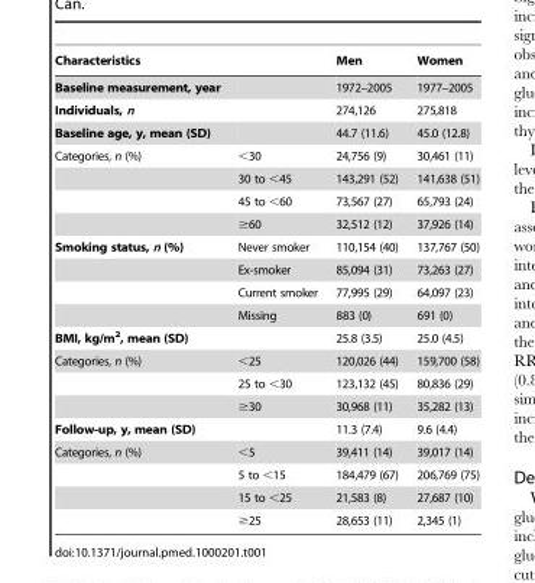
<table><thead><tr><td colspan="2">Characteristics</td><td rowspan="2">Men 1972–2005</td><td rowspan="2">Women 1977–2005</td></tr><tr><td>Baseline measurement, year</td><td></td></tr></thead><tbody><tr><td>Individuals, n</td><td></td><td>274,126</td><td>275,818</td></tr><tr><td>Baseline age, y, mean (SD)</td><td></td><td>44.7 (11.6)</td><td>45.0 (12.8)</td></tr><tr><td rowspan="4">Categories, n (%)</td><td>&lt;30</td><td>24,756 (9)</td><td>30,461 (11)</td></tr><tr><td>30 to &lt;45</td><td>143,291 (52)</td><td>141,638 (51)</td></tr><tr><td>45 to &lt;60</td><td>73,567 (27)</td><td>65,793 (24)</td></tr><tr><td>≥60</td><td>32,512 (12)</td><td>37,926 (14)</td></tr><tr><td rowspan="4">Smoking status, n (%)</td><td>Never smoker</td><td>110,154 (40)</td><td>137,767 (50)</td></tr><tr><td>Ex-smoker</td><td>85,094 (31)</td><td>73,263 (27)</td></tr><tr><td>Current smoker</td><td>77,995 (29)</td><td>64,097 (23)</td></tr><tr><td>Missing</td><td>883 (0)</td><td>691 (0)</td></tr><tr><td>BMI, kg/m<sup>2</sup>, mean (SD)</td><td></td><td>25.8 (3.5)</td><td>25.0 (4.5)</td></tr><tr><td rowspan="3">Categories, n (%)</td><td>&lt;25</td><td>120,026 (44)</td><td>159,700 (58)</td></tr><tr><td>25 to &lt;30</td><td>123,132 (45)</td><td>80,836 (29)</td></tr><tr><td>≥30</td><td>30,968 (11)</td><td>35,282 (13)</td></tr><tr><td>Follow-up, y, mean (SD)</td><td></td><td>11.3 (7.4)</td><td>9.6 (4.4)</td></tr><tr><td rowspan="4">Categories, n (%)</td><td>&lt;5</td><td>39,411 (14)</td><td>39,017 (14)</td></tr><tr><td>5 to &lt;15</td><td>184,479 (67)</td><td>206,769 (75)</td></tr><tr><td>15 to &lt;25</td><td>21,583 (8)</td><td>27,687 (10)</td></tr><tr><td>≥25</td><td>28,653 (11)</td><td>2,345 (1)</td></tr></tbody></table>